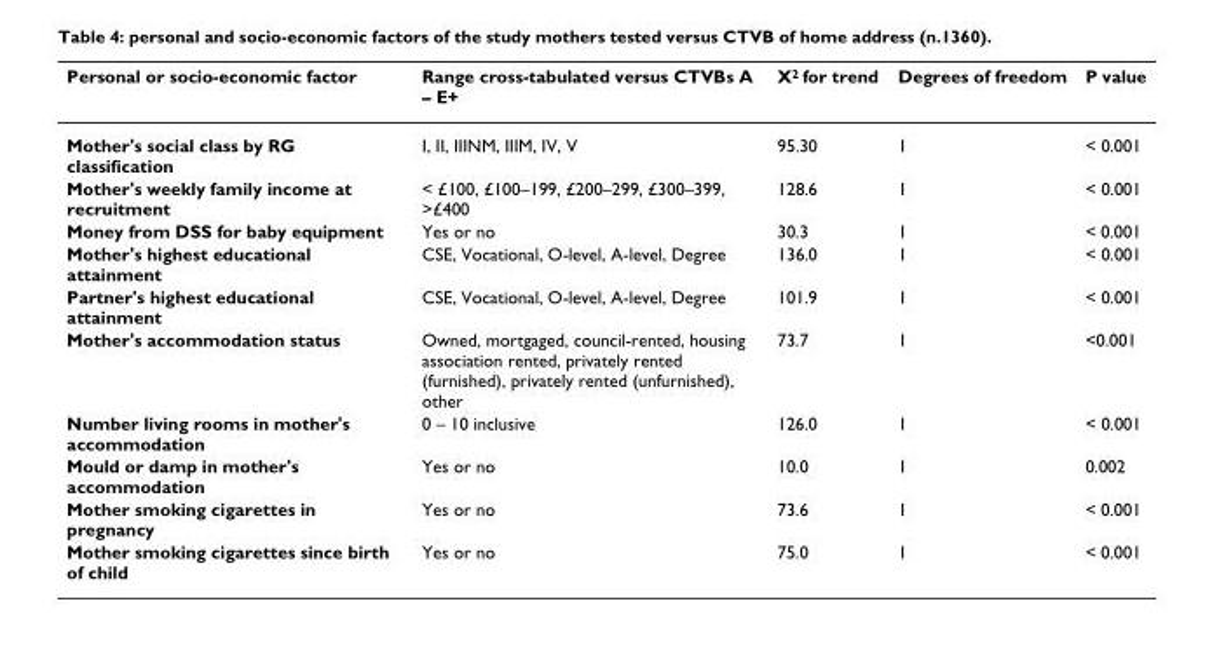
<table><thead><tr><td>Personal or socio-economic factor</td><td>Range cross-tabulated versus CTVBs A – E+</td><td>X2 for trend</td><td>Degrees of freedom</td><td>P value</td></tr></thead><tbody><tr><td>Mother&#x27;s social class by RG classification</td><td>I, II, IIINM, IIIM, IV, V</td><td>95.30</td><td>1</td><td>&lt; 0.001</td></tr><tr><td>Mother&#x27;s weekly family income at recruitment</td><td>&lt; £100, £100–199, £200–299, £300–399, &gt;£400</td><td>128.6</td><td>1</td><td>&lt; 0.001</td></tr><tr><td>Money from DSS for baby equipment</td><td>Yes or no</td><td>30.3</td><td>1</td><td>&lt; 0.001</td></tr><tr><td>Mother&#x27;s highest educational attainment</td><td>CSE, Vocational, O-level, A-level, Degree</td><td>136.0</td><td>1</td><td>&lt; 0.001</td></tr><tr><td>Partner&#x27;s highest educational attainment</td><td>CSE, Vocational, O-level, A-level, Degree</td><td>101.9</td><td>1</td><td>&lt; 0.001</td></tr><tr><td>Mother&#x27;s accommodation status</td><td>Owned, mortgaged, council-rented, housing association rented, privately rented (furnished), privately rented (unfurnished), other</td><td>73.7</td><td>1</td><td>&lt;0.001</td></tr><tr><td>Number living rooms in mother&#x27;s accommodation</td><td>0 – 10 inclusive</td><td>126.0</td><td>1</td><td>&lt; 0.001</td></tr><tr><td>Mould or damp in mother&#x27;s accommodation</td><td>Yes or no</td><td>10.0</td><td>1</td><td>0.002</td></tr><tr><td>Mother smoking cigarettes in pregnancy</td><td>Yes or no</td><td>73.6</td><td>1</td><td>&lt; 0.001</td></tr><tr><td>Mother smoking cigarettes since birth of child</td><td>Yes or no</td><td>75.0</td><td>1</td><td>&lt; 0.001</td></tr></tbody></table>